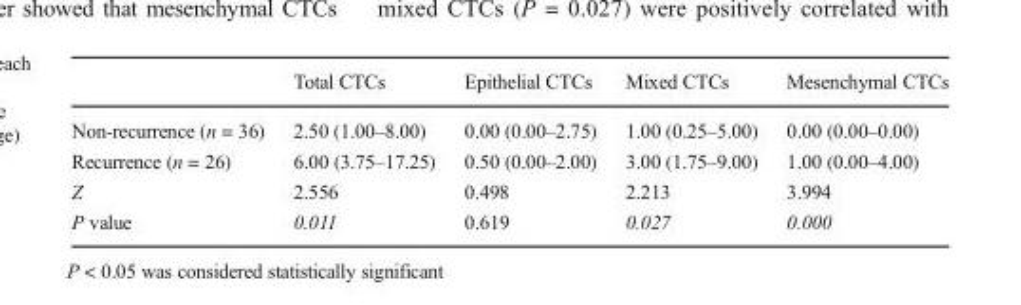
<table><thead><tr><td></td><td>Total CTCs</td><td>Epithelial CTCs</td><td>Mixed CTCs</td><td>Mesenchymal CTCs</td></tr></thead><tbody><tr><td>Non-recurrence (n = 36)</td><td>2.50 (1.00–8.00)</td><td>0.00 (0.00–2.75)</td><td>1.00 (0.25–5.00)</td><td>0.00 (0.00–0.00)</td></tr><tr><td>Recurrence (n = 26)</td><td>6.00 (3.75–17.25)</td><td>0.50 (0.00–2.00)</td><td>3.00 (1.75–9.00)</td><td>1.00 (0.00–4.00)</td></tr><tr><td>Z</td><td>2.556</td><td>0.498</td><td>2.213</td><td>3.994</td></tr><tr><td>P value</td><td>0.011</td><td>0.619</td><td>0.027</td><td>0.000</td></tr></tbody></table>